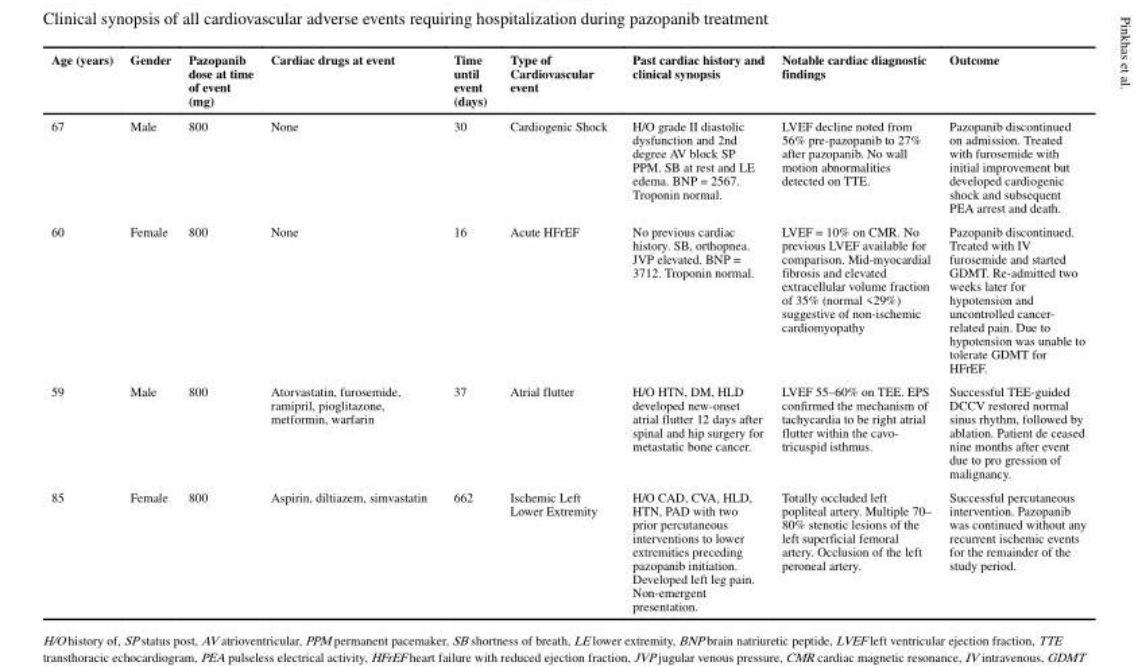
<table><thead><tr><td>Age (years)</td><td>Gender</td><td>Pazopanib dose at time of event (mg)</td><td>Cardiac drugs at event</td><td>Time until event (days)</td><td>Type of Cardiovascular event</td><td>Past cardiac history and clinical synopsis</td><td>Notable cardiac diagnostic findings</td><td>Outcome</td></tr></thead><tbody><tr><td>67</td><td>Male</td><td>800</td><td>None</td><td>30</td><td>Cardiogenic Shock</td><td>H/O grade II diastolic dysfunction and 2nd degree AV block SP PPM. SB at rest and LE edema. BNP = 2567. Troponin normal.</td><td>LVEF decline noted from 56% pre-pazopanib to 27% after pazopanib. No wall motion abnormalities detected on TTE.</td><td>Pazopanib discontinued on admission. Treated with furosemide with initial improvement but developed cardiogenic shock and subsequent PEA arrest and death.</td></tr><tr><td>60</td><td>Female</td><td>800</td><td>None</td><td>16</td><td>Acute HFrEF</td><td>No previous cardiac history. SB, orthopnea. JVP elevated. BNP = 3712. Troponin normal.</td><td>LVEF = 10% on CMR. No previous LVEF available for comparison. Mid-myocardial fibrosis and elevated extracellular volume fraction of 35% (normal &lt;29%) suggestive of non-ischemic cardiomyopathy</td><td>Pazopanib discontinued. Treated with IV furosemide and started GDMT. Re-admitted two weeks later for hypotension and uncontrolled cancer- related pain. Due to hypotension was unable to tolerate GDMT for HFrEF.</td></tr><tr><td>59</td><td>Male</td><td>800</td><td>Atorvastatin, furosemide, ramipril, pioglitazone, metformin, warfarin</td><td>37</td><td>Atrial flutter</td><td>H/O HTN, DM, HLD developed new-onset atrial flutter 12 days after spinal and hip surgery for metastatic bone cancer.</td><td>LVEF 55–60% on TEE. EPS confirmed the mechanism of tachycardia to be right atrial flutter within the cavo- tricuspid isthmus.</td><td>Successful TEE-guided DCCV restored normal sinus rhythm, followed by ablation. Patient de ceased nine months after event due to pro gression of malignancy.</td></tr><tr><td>85</td><td>Female</td><td>800</td><td>Aspirin, diltiazem, simvastatin</td><td>662</td><td>Ischemic Left Lower Extremity</td><td>H/O CAD, CVA, HLD, HTN, PAD with two prior percutaneous interventions to lower extremities preceding pazopanib initiation. Developed left leg pain. Non-emergent presentation.</td><td>Totally occluded left popliteal artery. Multiple 70– 80% stenotic lesions of the left superficial femoral artery. Occlusion of the left peroneal artery.</td><td>Successful percutaneous intervention. Pazopanib was continued without any recurrent ischemic events for the remainder of the study period.</td></tr></tbody></table>